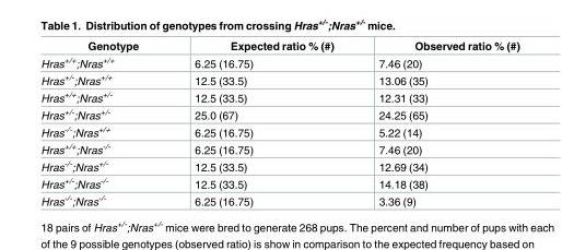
<table><thead><tr><td>Genotype</td><td>Expected ratio % (#)</td><td>Observed ratio % (#)</td></tr></thead><tbody><tr><td>Hras<sup>+/+</sup>;Nras<sup>+/+</sup></td><td>6.25 (16.75)</td><td>7.46 (20)</td></tr><tr><td>Hras<sup>+/-</sup>;Nras<sup>+/+</sup></td><td>12.5 (33.5)</td><td>13.06 (35)</td></tr><tr><td>Hras<sup>+/+</sup>;Nras<sup>+/-</sup></td><td>12.5 (33.5)</td><td>12.31 (33)</td></tr><tr><td>Hras<sup>+/-</sup>;Nras<sup>+/-</sup></td><td>25.0 (67)</td><td>24.25 (65)</td></tr><tr><td>Hras<sup>-/-</sup>;Nras<sup>+/+</sup></td><td>6.25 (16.75)</td><td>5.22 (14)</td></tr><tr><td>Hras<sup>+/+</sup>;Nras<sup>-/-</sup></td><td>6.25 (16.75)</td><td>7.46 (20)</td></tr><tr><td>Hras<sup>-/-</sup>;Nras<sup>+/-</sup></td><td>12.5 (33.5)</td><td>12.69 (34)</td></tr><tr><td>Hras<sup>+/-</sup>;Nras<sup>-/-</sup></td><td>12.5 (33.5)</td><td>14.18 (38)</td></tr><tr><td>Hras<sup>-/-</sup>;Nras<sup>-/-</sup></td><td>6.25 (16.75)</td><td>3.36 (9)</td></tr></tbody></table>